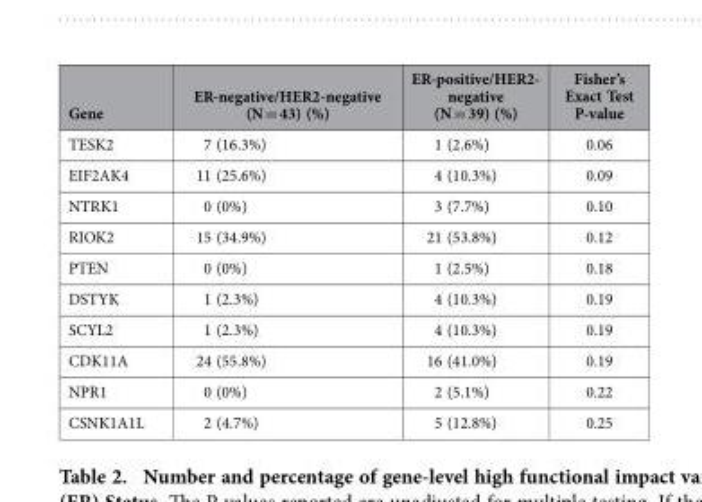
<table><thead><tr><td>Gene</td><td>ER-negative/HER2-negative (N = 43) (%)</td><td>ER-positive/HER2- negative (N = 39) (%)</td><td>Fisher’s Exact Test P-value</td></tr></thead><tbody><tr><td>TESK2</td><td>7 (16.3%)</td><td>1 (2.6%)</td><td>0.06</td></tr><tr><td>EIF2AK4</td><td>11 (25.6%)</td><td>4 (10.3%)</td><td>0.09</td></tr><tr><td>NTRK1</td><td>0 (0%)</td><td>3 (7.7%)</td><td>0.10</td></tr><tr><td>RIOK2</td><td>15 (34.9%)</td><td>21 (53.8%)</td><td>0.12</td></tr><tr><td>PTEN</td><td>0 (0%)</td><td>1 (2.5%)</td><td>0.18</td></tr><tr><td>DSTYK</td><td>1 (2.3%)</td><td>4 (10.3%)</td><td>0.19</td></tr><tr><td>SCYL2</td><td>1 (2.3%)</td><td>4 (10.3%)</td><td>0.19</td></tr><tr><td>CDK11A</td><td>24 (55.8%)</td><td>16 (41.0%)</td><td>0.19</td></tr><tr><td>NPR1</td><td>0 (0%)</td><td>2 (5.1%)</td><td>0.22</td></tr><tr><td>CSNK1A1L</td><td>2 (4.7%)</td><td>5 (12.8%)</td><td>0.25</td></tr></tbody></table>